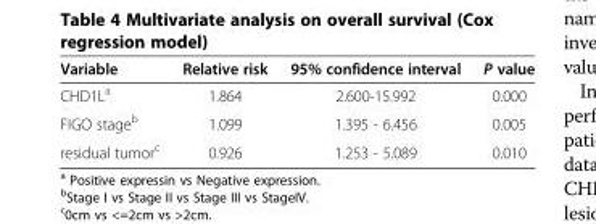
<table><thead><tr><td>Variable</td><td>Relative risk</td><td>95% confidence interval</td><td>P value</td></tr></thead><tbody><tr><td>CHD1L<sup>a</sup></td><td>1.864</td><td>2.600-15.992</td><td>0.000</td></tr><tr><td>FIGO stage<sup>b</sup></td><td>1.099</td><td>1.395 - 6.456</td><td>0.005</td></tr><tr><td>residual tumor<sup>c</sup></td><td>0.926</td><td>1.253 - 5.089</td><td>0.010</td></tr></tbody></table>